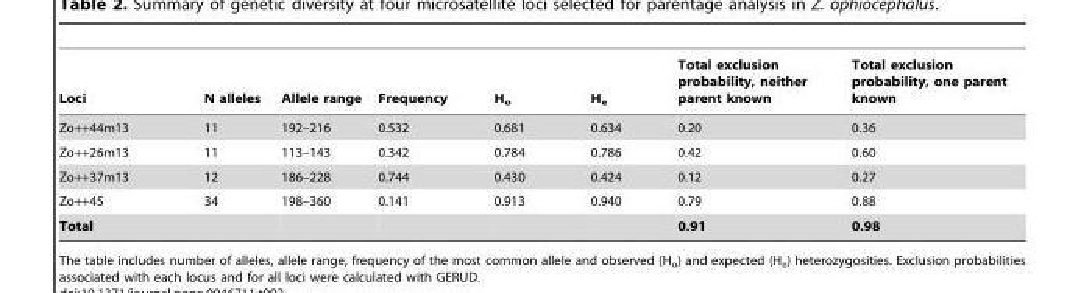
<table><thead><tr><td>Loci</td><td>N alleles</td><td>Allele range</td><td>Frequency</td><td>H<sub>o</sub></td><td>H<sub>e</sub></td><td>Total exclusion probability, neither parent known</td><td>Total exclusion probability, one parent known</td></tr></thead><tbody><tr><td>Zo++44m13</td><td>11</td><td>192–216</td><td>0.532</td><td>0.681</td><td>0.634</td><td>0.20</td><td>0.36</td></tr><tr><td>Zo++26m13</td><td>11</td><td>113–143</td><td>0.342</td><td>0.784</td><td>0.786</td><td>0.42</td><td>0.60</td></tr><tr><td>Zo++37m13</td><td>12</td><td>186–228</td><td>0.744</td><td>0.430</td><td>0.424</td><td>0.12</td><td>0.27</td></tr><tr><td>Zo++45</td><td>34</td><td>198–360</td><td>0.141</td><td>0.913</td><td>0.940</td><td>0.79</td><td>0.88</td></tr><tr><td>Total</td><td></td><td></td><td></td><td></td><td></td><td>0.91</td><td>0.98</td></tr></tbody></table>